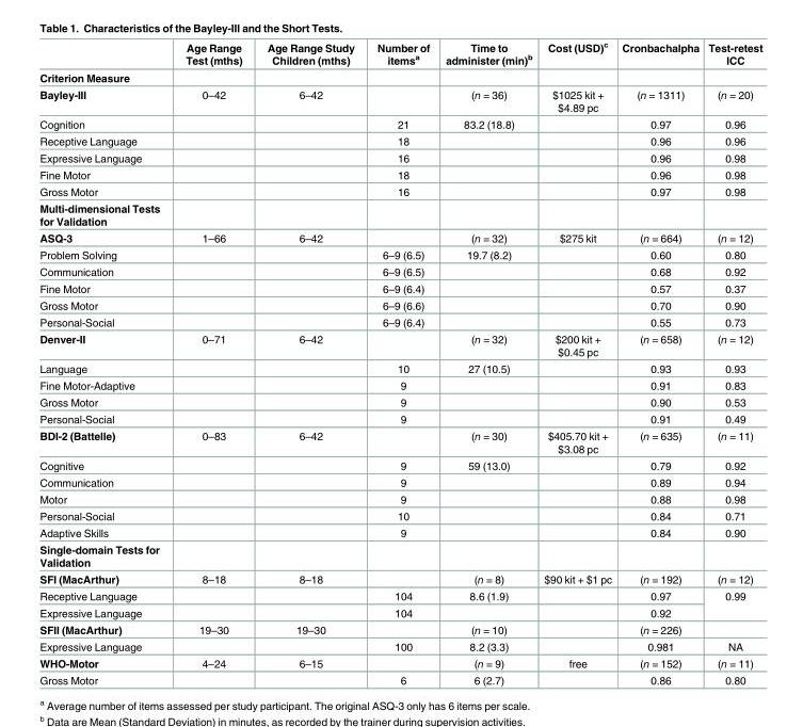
<table><thead><tr><td></td><td>Age Range Test (mths)</td><td>Age Range Study Children (mths)</td><td>Number of items<sup>a</sup></td><td>Time to administer (min)<sup>b</sup></td><td>Cost (USD)<sup>c</sup></td><td>Cronbachalpha</td><td>Test-retest ICC</td></tr></thead><tbody><tr><td colspan="8">Criterion Measure</td></tr><tr><td>Bayley-III</td><td>0–42</td><td>6–42</td><td></td><td>(n = 36)</td><td>$1025 kit + $4.89 pc</td><td>(n = 1311)</td><td>(n = 20)</td></tr><tr><td>Cognition</td><td></td><td></td><td>21</td><td>83.2 (18.8)</td><td></td><td>0.97</td><td>0.96</td></tr><tr><td>Receptive Language</td><td></td><td></td><td>18</td><td></td><td></td><td>0.96</td><td>0.96</td></tr><tr><td>Expressive Language</td><td></td><td></td><td>16</td><td></td><td></td><td>0.96</td><td>0.98</td></tr><tr><td>Fine Motor</td><td></td><td></td><td>18</td><td></td><td></td><td>0.96</td><td>0.98</td></tr><tr><td>Gross Motor</td><td></td><td></td><td>16</td><td></td><td></td><td>0.97</td><td>0.98</td></tr><tr><td colspan="8">Multi-dimensional Tests for Validation</td></tr><tr><td>ASQ-3</td><td>1–66</td><td>6–42</td><td></td><td>(n = 32)</td><td>$275 kit</td><td>(n = 664)</td><td>(n = 12)</td></tr><tr><td>Problem Solving</td><td></td><td></td><td>6–9 (6.5)</td><td>19.7 (8.2)</td><td></td><td>0.60</td><td>0.80</td></tr><tr><td>Communication</td><td></td><td></td><td>6–9 (6.5)</td><td></td><td></td><td>0.68</td><td>0.92</td></tr><tr><td>Fine Motor</td><td></td><td></td><td>6–9 (6.4)</td><td></td><td></td><td>0.57</td><td>0.37</td></tr><tr><td>Gross Motor</td><td></td><td></td><td>6–9 (6.6)</td><td></td><td></td><td>0.70</td><td>0.90</td></tr><tr><td>Personal-Social</td><td></td><td></td><td>6–9 (6.4)</td><td></td><td></td><td>0.55</td><td>0.73</td></tr><tr><td>Denver-II</td><td>0–71</td><td>6–42</td><td></td><td>(n = 32)</td><td>$200 kit + $0.45 pc</td><td>(n = 658)</td><td>(n = 12)</td></tr><tr><td>Language</td><td></td><td></td><td>10</td><td>27 (10.5)</td><td></td><td>0.93</td><td>0.93</td></tr><tr><td>Fine Motor-Adaptive</td><td></td><td></td><td>9</td><td></td><td></td><td>0.91</td><td>0.83</td></tr><tr><td>Gross Motor</td><td></td><td></td><td>9</td><td></td><td></td><td>0.90</td><td>0.53</td></tr><tr><td>Personal-Social</td><td></td><td></td><td>9</td><td></td><td></td><td>0.91</td><td>0.49</td></tr><tr><td>BDI-2 (Battelle)</td><td>0–83</td><td>6–42</td><td></td><td>(n = 30)</td><td>$405.70 kit + $3.08 pc</td><td>(n = 635)</td><td>(n = 11)</td></tr><tr><td>Cognitive</td><td></td><td></td><td>9</td><td>59 (13.0)</td><td></td><td>0.79</td><td>0.92</td></tr><tr><td>Communication</td><td></td><td></td><td>9</td><td></td><td></td><td>0.89</td><td>0.94</td></tr><tr><td>Motor</td><td></td><td></td><td>9</td><td></td><td></td><td>0.88</td><td>0.98</td></tr><tr><td>Personal-Social</td><td></td><td></td><td>10</td><td></td><td></td><td>0.84</td><td>0.71</td></tr><tr><td>Adaptive Skills</td><td></td><td></td><td>9</td><td></td><td></td><td>0.84</td><td>0.90</td></tr><tr><td colspan="8">Single-domain Tests for Validation</td></tr><tr><td>SFI (MacArthur)</td><td>8–18</td><td>8–18</td><td></td><td>(n = 8)</td><td>$90 kit + $1 pc</td><td>(n = 192)</td><td>(n = 12)</td></tr><tr><td>Receptive Language</td><td></td><td></td><td>104</td><td>8.6 (1.9)</td><td></td><td>0.97</td><td rowspan="2">0.99</td></tr><tr><td>Expressive Language</td><td></td><td></td><td>104</td><td></td><td></td><td>0.92</td></tr><tr><td>SFII (MacArthur)</td><td>19–30</td><td>19–30</td><td></td><td>(n = 10)</td><td></td><td>(n = 226)</td><td></td></tr><tr><td>Expressive Language</td><td></td><td></td><td>100</td><td>8.2 (3.3)</td><td></td><td>0.981</td><td>NA</td></tr><tr><td>WHO-Motor</td><td>4–24</td><td>6–15</td><td></td><td>(n = 9)</td><td>free</td><td>(n = 152)</td><td>(n = 11)</td></tr><tr><td>Gross Motor</td><td></td><td></td><td>6</td><td>6 (2.7)</td><td></td><td>0.86</td><td>0.80</td></tr></tbody></table>